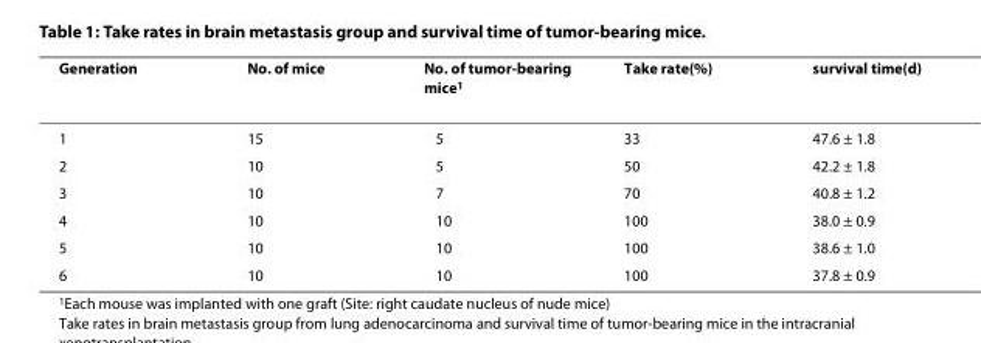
<table><thead><tr><td>Generation</td><td>No. of mice</td><td>No. of tumor-bearing mice<sup>1</sup></td><td>Take rate(%)</td><td>survival time(d)</td></tr></thead><tbody><tr><td>1</td><td>15</td><td>5</td><td>33</td><td>47.6 ± 1.8</td></tr><tr><td>2</td><td>10</td><td>5</td><td>50</td><td>42.2 ± 1.8</td></tr><tr><td>3</td><td>10</td><td>7</td><td>70</td><td>40.8 ± 1.2</td></tr><tr><td>4</td><td>10</td><td>10</td><td>100</td><td>38.0 ± 0.9</td></tr><tr><td>5</td><td>10</td><td>10</td><td>100</td><td>38.6 ± 1.0</td></tr><tr><td>6</td><td>10</td><td>10</td><td>100</td><td>37.8 ± 0.9</td></tr></tbody></table>